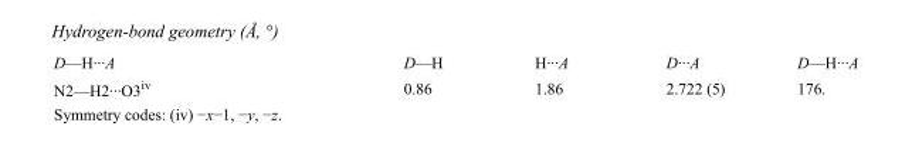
<table><tbody><tr><td>D—H···A</td><td>D—H</td><td>H···A</td><td>D···A</td><td>D—H···A</td></tr><tr><td>N2—H2···O3<sup>iv</sup></td><td>0.86</td><td>1.86</td><td>2.722 (5)</td><td>176.</td></tr></tbody></table>